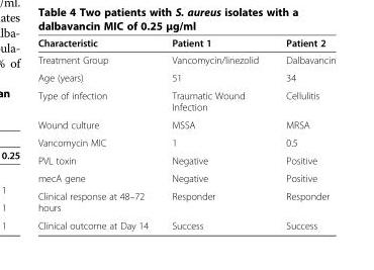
<table><thead><tr><td>Characteristic</td><td>Patient 1</td><td>Patient 2</td></tr></thead><tbody><tr><td>Treatment Group</td><td>Vancomycin/linezolid</td><td>Dalbavancin</td></tr><tr><td>Age (years)</td><td>51</td><td>34</td></tr><tr><td>Type of infection</td><td>Traumatic Wound Infection</td><td>Cellulitis</td></tr><tr><td>Wound culture</td><td>MSSA</td><td>MRSA</td></tr><tr><td>Vancomycin MIC</td><td>1</td><td>0.5</td></tr><tr><td>PVL toxin</td><td>Negative</td><td>Positive</td></tr><tr><td>mecA gene</td><td>Negative</td><td>Positive</td></tr><tr><td>Clinical response at 48–72 hours</td><td>Responder</td><td>Responder</td></tr><tr><td>Clinical outcome at Day 14</td><td>Success</td><td>Success</td></tr></tbody></table>